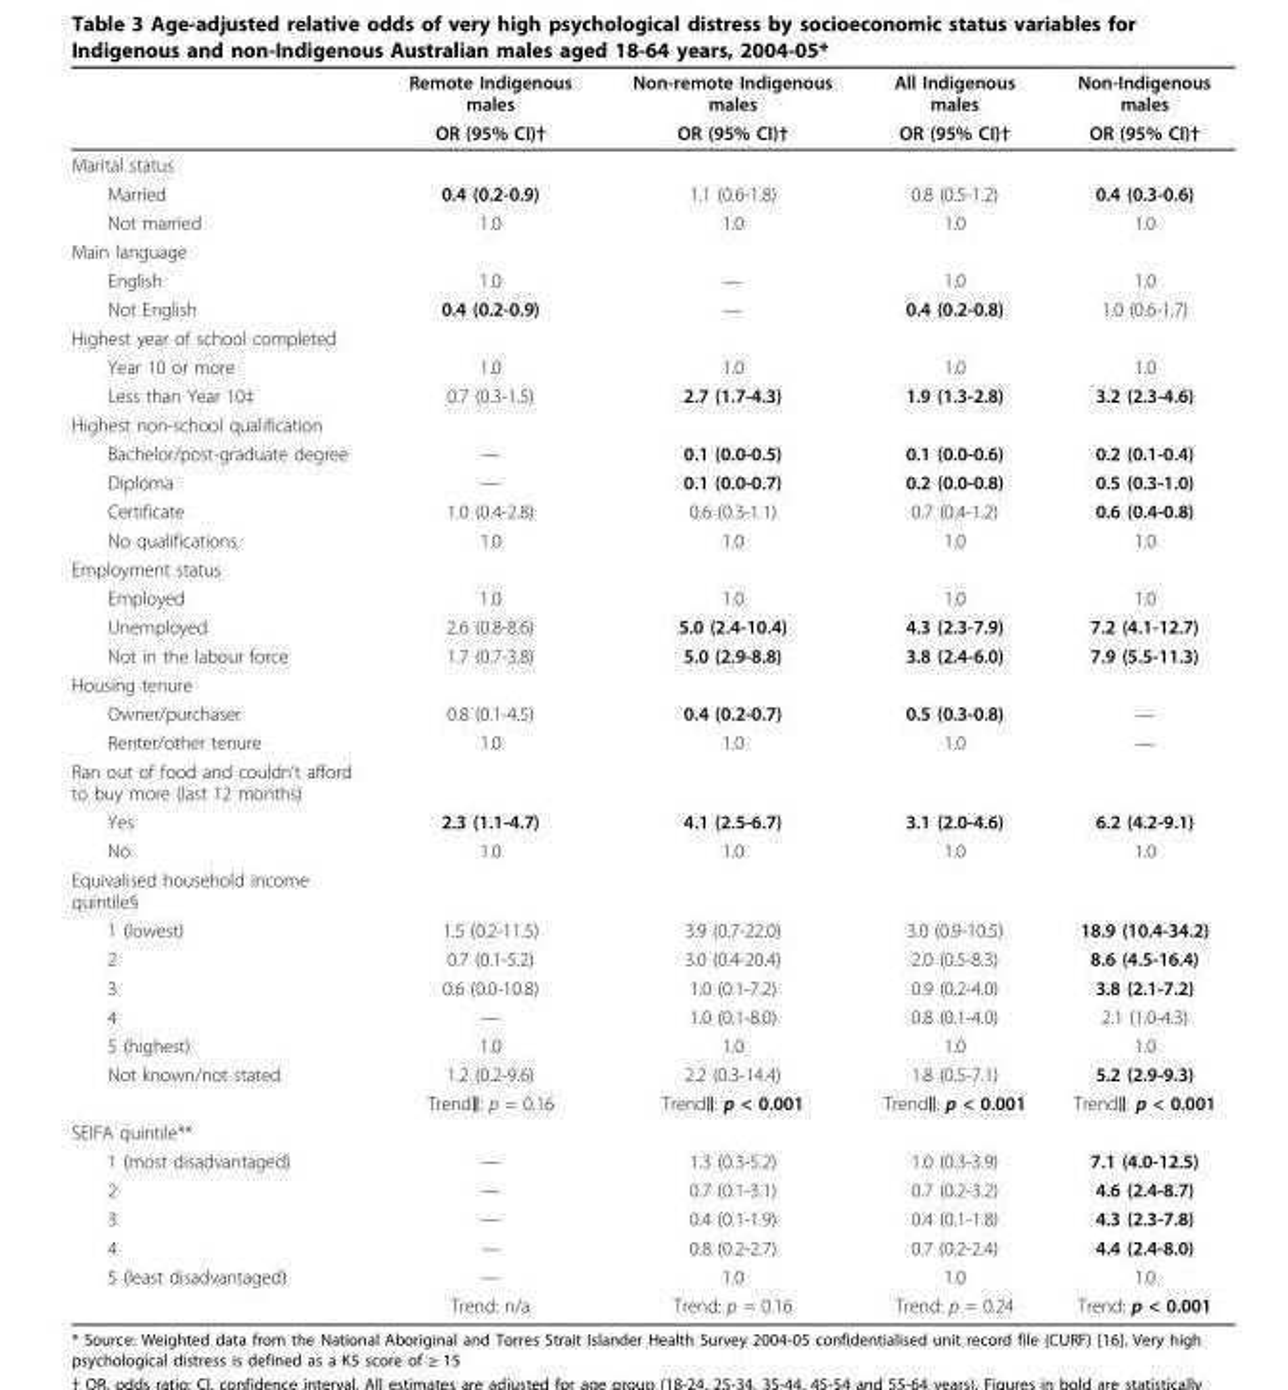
<table><thead><tr><td rowspan="2"></td><td rowspan="2">Remote Indigenous males OR (95% CI)†</td><td rowspan="2">Non-remote Indigenous males OR (95% CI)†</td><td rowspan="2">All Indigenous males OR (95% CI)†</td><td rowspan="2">Non-Indigenous males OR (95% CI)†</td></tr><tr></tr></thead><tbody><tr><td colspan="5">Marital status</td></tr><tr><td>Married</td><td>0.4 (0.2-0.9)</td><td>1.1 (0.6-1.8)</td><td>0.8 (0.5-1.2)</td><td>0.4 (0.3-0.6)</td></tr><tr><td>Not married</td><td>1.0</td><td>1.0</td><td>1.0</td><td>1.0</td></tr><tr><td colspan="5">Main language</td></tr><tr><td>English</td><td>1.0</td><td>—</td><td>1.0</td><td>1.0</td></tr><tr><td>Not English</td><td>0.4 (0.2-0.9)</td><td>—</td><td>0.4 (0.2-0.8)</td><td>1.0 (0.6-1.7)</td></tr><tr><td colspan="5">Highest year of school completed</td></tr><tr><td>Year 10 or more</td><td>1.0</td><td>1.0</td><td>1.0</td><td>1.0</td></tr><tr><td>Less than Year 10‡</td><td>0.7 (0.3-1.5)</td><td>2.7 (1.7-4.3)</td><td>1.9 (1.3-2.8)</td><td>3.2 (2.3-4.6)</td></tr><tr><td colspan="5">Highest non-school qualification</td></tr><tr><td>Bachelor/post-graduate degree</td><td>—</td><td>0.1 (0.0-0.5)</td><td>0.1 (0.0-0.6)</td><td>0.2 (0.1-0.4)</td></tr><tr><td>Diploma</td><td>—</td><td>0.1 (0.0-0.7)</td><td>0.2 (0.0-0.8)</td><td>0.5 (0.3-1.0)</td></tr><tr><td>Certificate</td><td>1.0 (0.4-2.8)</td><td>0.6 (0.3-1.1)</td><td>0.7 (0.4-1.2)</td><td>0.6 (0.4-0.8)</td></tr><tr><td>No qualifications</td><td>1.0</td><td>1.0</td><td>1.0</td><td>1.0</td></tr><tr><td colspan="5">Employment status</td></tr><tr><td>Employed</td><td>1.0</td><td>1.0</td><td>1.0</td><td>1.0</td></tr><tr><td>Unemployed</td><td>2.6 (0.8-8.6)</td><td>5.0 (2.4-10.4)</td><td>4.3 (2.3-7.9)</td><td>7.2 (4.1-12.7)</td></tr><tr><td>Not in the labour force</td><td>1.7 (0.7-3.8)</td><td>5.0 (2.9-8.8)</td><td>3.8 (2.4-6.0)</td><td>7.9 (5.5-11.3)</td></tr><tr><td colspan="5">Housing tenure</td></tr><tr><td>Owner/purchaser</td><td>0.8 (0.1-4.5)</td><td>0.4 (0.2-0.7)</td><td>0.5 (0.3-0.8)</td><td>—</td></tr><tr><td>Renter/other tenure</td><td>1.0</td><td>1.0</td><td>1.0</td><td>—</td></tr><tr><td colspan="5">Ran out of food and couldn’t afford to buy more (last 12 months)</td></tr><tr><td>Yes</td><td>2.3 (1.1-4.7)</td><td>4.1 (2.5-6.7)</td><td>3.1 (2.0-4.6)</td><td>6.2 (4.2-9.1)</td></tr><tr><td>No</td><td>1.0</td><td>1.0</td><td>1.0</td><td>1.0</td></tr><tr><td colspan="5">Equivalised household income quintile§</td></tr><tr><td>1 (lowest)</td><td>1.5 (0.2-11.5)</td><td>3.9 (0.7-22.0)</td><td>3.0 (0.9-10.5)</td><td>18.9 (10.4-34.2)</td></tr><tr><td>2</td><td>0.7 (0.1-5.2)</td><td>3.0 (0.4-20.4)</td><td>2.0 (0.5-8.3)</td><td>8.6 (4.5-16.4)</td></tr><tr><td>3</td><td>0.6 (0.0-10.8)</td><td>1.0 (0.1-7.2)</td><td>0.9 (0.2-4.0)</td><td>3.8 (2.1-7.2)</td></tr><tr><td>4</td><td>—</td><td>1.0 (0.1-8.0)</td><td>0.8 (0.1-4.0)</td><td>2.1 (1.0-4.3)</td></tr><tr><td>5 (highest)</td><td>1.0</td><td>1.0</td><td>1.0</td><td>1.0</td></tr><tr><td rowspan="2">Not known/not stated</td><td>1.2 (0.2-9.6)</td><td>2.2 (0.3-14.4)</td><td>1.8 (0.5-7.1)</td><td>5.2 (2.9-9.3)</td></tr><tr><td>Trend‖: p = 0.16</td><td>Trend‖: p &lt; 0.001</td><td>Trend‖: p &lt; 0.001</td><td>Trend‖: p &lt; 0.001</td></tr><tr><td colspan="5">SEIFA quintile**</td></tr><tr><td>1 (most disadvantaged)</td><td>—</td><td>1.3 (0.3-5.2)</td><td>1.0 (0.3-3.9)</td><td>7.1 (4.0-12.5)</td></tr><tr><td>2</td><td>—</td><td>0.7 (0.1-3.1)</td><td>0.7 (0.2-3.2)</td><td>4.6 (2.4-8.7)</td></tr><tr><td>3</td><td>—</td><td>0.4 (0.1-1.9)</td><td>0.4 (0.1-1.8)</td><td>4.3 (2.3-7.8)</td></tr><tr><td>4</td><td>—</td><td>0.8 (0.2-2.7)</td><td>0.7 (0.2-2.4)</td><td>4.4 (2.4-8.0)</td></tr><tr><td rowspan="2">5 (least disadvantaged)</td><td>—</td><td>1.0</td><td>1.0</td><td>1.0</td></tr><tr><td>Trend: n/a</td><td>Trend: p = 0.16</td><td>Trend: p = 0.24</td><td>Trend: p &lt; 0.001</td></tr></tbody></table>